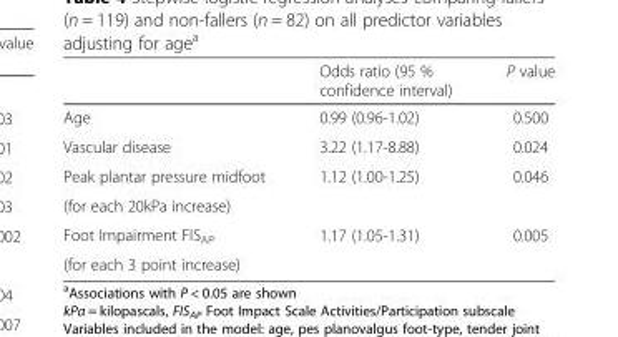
<table><thead><tr><td></td><td>Odds ratio (95 % confidence interval)</td><td>P value</td></tr></thead><tbody><tr><td>Age</td><td>0.99 (0.96-1.02)</td><td>0.500</td></tr><tr><td>Vascular disease</td><td>3.22 (1.17-8.88)</td><td>0.024</td></tr><tr><td>Peak plantar pressure midfoot</td><td rowspan="2">1.12 (1.00-1.25)</td><td rowspan="2">0.046</td></tr><tr><td>(for each 20kPa increase)</td></tr><tr><td>Foot Impairment FIS<sub>AP</sub></td><td rowspan="2">1.17 (1.05-1.31)</td><td rowspan="2">0.005</td></tr><tr><td>(for each 3 point increase)</td></tr></tbody></table>